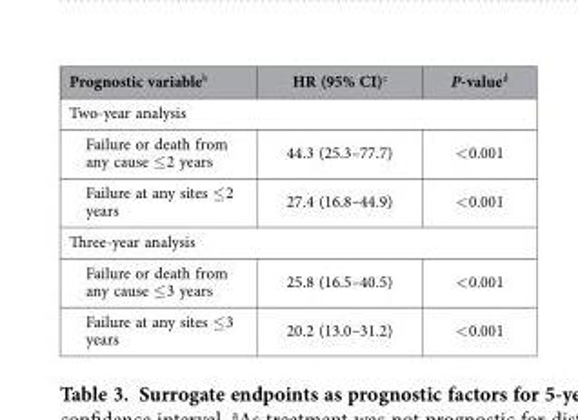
<table><thead><tr><td>Prognostic variable<sup>b</sup></td><td>HR (95% CI)<sup>c</sup></td><td>P-value<sup>d</sup></td></tr></thead><tbody><tr><td colspan="3">Two-year analysis</td></tr><tr><td>Failure or death from any cause ≤ 2 years</td><td>44.3 (25.3–77.7)</td><td>&lt; 0.001</td></tr><tr><td>Failure at any sites ≤ 2 years</td><td>27.4 (16.8–44.9)</td><td>&lt; 0.001</td></tr><tr><td colspan="3">Three-year analysis</td></tr><tr><td>Failure or death from any cause ≤ 3 years</td><td>25.8 (16.5–40.5)</td><td>&lt; 0.001</td></tr><tr><td>Failure at any sites ≤ 3 years</td><td>20.2 (13.0–31.2)</td><td>&lt; 0.001</td></tr></tbody></table>